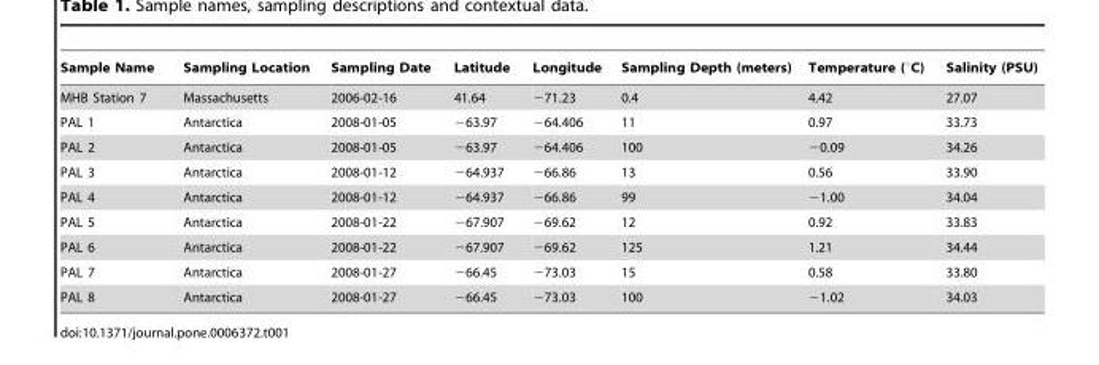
<table><thead><tr><td>Sample Name</td><td>Sampling Location</td><td>Sampling Date</td><td>Latitude</td><td>Longitude</td><td>Sampling Depth (meters)</td><td>Temperature (°C)</td><td>Salinity (PSU)</td></tr></thead><tbody><tr><td>MHB Station 7</td><td>Massachusetts</td><td>2006-02-16</td><td>41.64</td><td>−71.23</td><td>0.4</td><td>4.42</td><td>27.07</td></tr><tr><td>PAL 1</td><td>Antarctica</td><td>2008-01-05</td><td>−63.97</td><td>−64.406</td><td>11</td><td>0.97</td><td>33.73</td></tr><tr><td>PAL 2</td><td>Antarctica</td><td>2008-01-05</td><td>−63.97</td><td>−64.406</td><td>100</td><td>−0.09</td><td>34.26</td></tr><tr><td>PAL 3</td><td>Antarctica</td><td>2008-01-12</td><td>−64.937</td><td>−66.86</td><td>13</td><td>0.56</td><td>33.90</td></tr><tr><td>PAL 4</td><td>Antarctica</td><td>2008-01-12</td><td>−64.937</td><td>−66.86</td><td>99</td><td>−1.00</td><td>34.04</td></tr><tr><td>PAL 5</td><td>Antarctica</td><td>2008-01-22</td><td>−67.907</td><td>−69.62</td><td>12</td><td>0.92</td><td>33.83</td></tr><tr><td>PAL 6</td><td>Antarctica</td><td>2008-01-22</td><td>−67.907</td><td>−69.62</td><td>125</td><td>1.21</td><td>34.44</td></tr><tr><td>PAL 7</td><td>Antarctica</td><td>2008-01-27</td><td>−66.45</td><td>−73.03</td><td>15</td><td>0.58</td><td>33.80</td></tr><tr><td>PAL 8</td><td>Antarctica</td><td>2008-01-27</td><td>−66.45</td><td>−73.03</td><td>100</td><td>−1.02</td><td>34.03</td></tr></tbody></table>